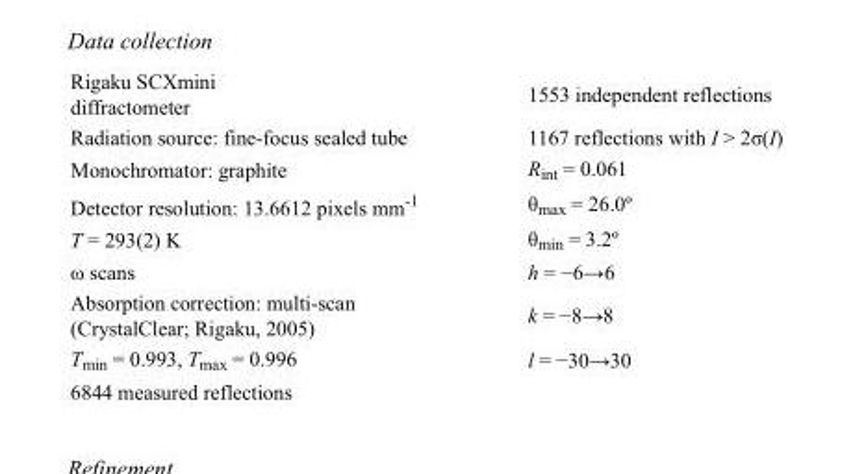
<table><tbody><tr><td>Rigaku SCXmini diffractometer</td><td>1553 independent reflections</td></tr><tr><td>Radiation source: fine-focus sealed tube</td><td>1167 reflections with I &gt; 2σ(I)</td></tr><tr><td>Monochromator: graphite</td><td>R<sub>int</sub> = 0.061</td></tr><tr><td>Detector resolution: 13.6612 pixels mm<sup>-1</sup></td><td>θ<sub>max</sub> = 26.0º</td></tr><tr><td>T = 293(2) K</td><td>θ<sub>min</sub> = 3.2º</td></tr><tr><td>ω scans</td><td>h = −6→6</td></tr><tr><td>Absorption correction: multi-scan (CrystalClear; Rigaku, 2005)</td><td>k = −8→8</td></tr><tr><td>T<sub>min</sub> = 0.993, T<sub>max</sub> = 0.996</td><td>l = −30→30</td></tr><tr><td>6844 measured reflections</td><td></td></tr></tbody></table>